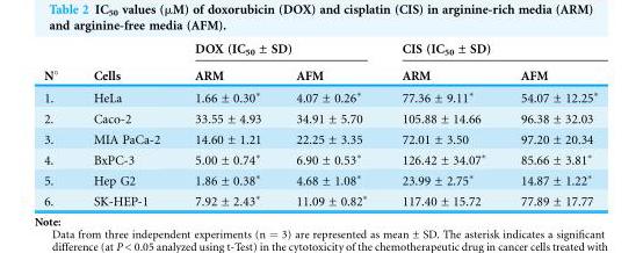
<table><thead><tr><td rowspan="2">N°</td><td rowspan="2">Cells</td><td colspan="2">DOX (IC<sub>50</sub> ± SD)</td><td colspan="2">CIS (IC<sub>50</sub> ± SD)</td></tr><tr><td>ARM</td><td>AFM</td><td>ARM</td><td>AFM</td></tr></thead><tbody><tr><td>1.</td><td>HeLa</td><td>1.66 ± 0.30*</td><td>4.07 ± 0.26*</td><td>77.36 ± 9.11*</td><td>54.07 ± 12.25*</td></tr><tr><td>2.</td><td>Caco-2</td><td>33.55 ± 4.93</td><td>34.91 ± 5.70</td><td>105.88 ± 14.66</td><td>96.38 ± 32.03</td></tr><tr><td>3.</td><td>MIA PaCa-2</td><td>14.60 ± 1.21</td><td>22.25 ± 3.35</td><td>72.01 ± 3.50</td><td>97.20 ± 20.34</td></tr><tr><td>4.</td><td>BxPC-3</td><td>5.00 ± 0.74*</td><td>6.90 ± 0.53*</td><td>126.42 ± 34.07*</td><td>85.66 ± 3.81*</td></tr><tr><td>5.</td><td>Hep G2</td><td>1.86 ± 0.38*</td><td>4.68 ± 1.08*</td><td>23.99 ± 2.75*</td><td>14.87 ± 1.22*</td></tr><tr><td>6.</td><td>SK-HEP-1</td><td>7.92 ± 2.43*</td><td>11.09 ± 0.82*</td><td>117.40 ± 15.72</td><td>77.89 ± 17.77</td></tr></tbody></table>